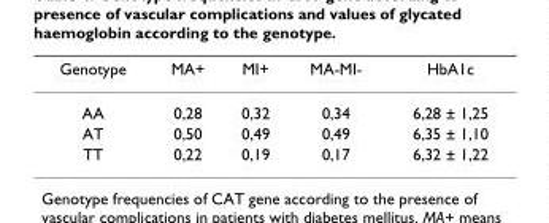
<table><thead><tr><td>Genotype</td><td>MA+</td><td>MI+</td><td>MA-MI-</td><td>HbA1c</td></tr></thead><tbody><tr><td>AA</td><td>0,28</td><td>0,32</td><td>0,34</td><td>6,28 ± 1,25</td></tr><tr><td>AT</td><td>0,50</td><td>0,49</td><td>0,49</td><td>6,35 ± 1,10</td></tr><tr><td>TT</td><td>0,22</td><td>0,19</td><td>0,17</td><td>6,32 ± 1,22</td></tr></tbody></table>